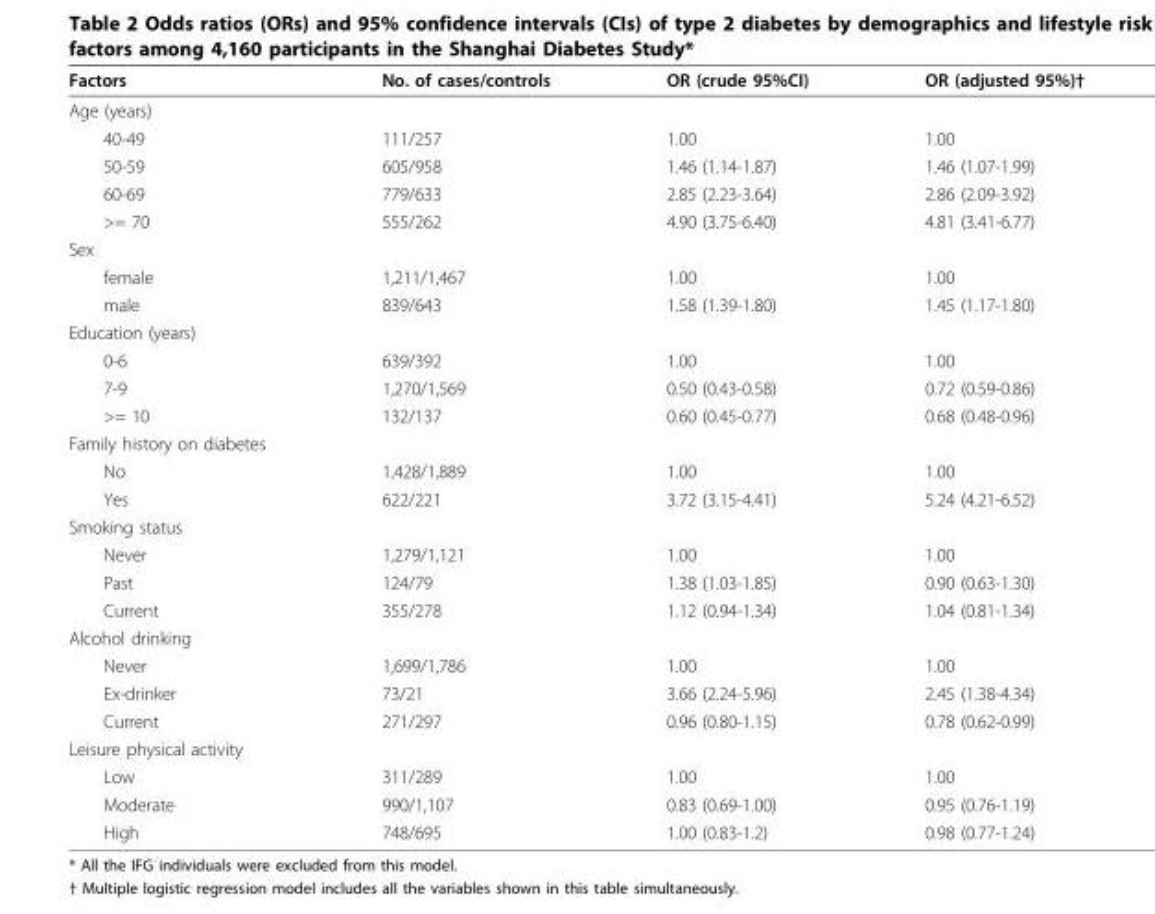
<table><thead><tr><td>Factors</td><td>No. of cases/controls</td><td>OR (crude 95%CI)</td><td>OR (adjusted 95%)†</td></tr></thead><tbody><tr><td colspan="4">Age (years)</td></tr><tr><td>40-49</td><td>111/257</td><td>1.00</td><td>1.00</td></tr><tr><td>50-59</td><td>605/958</td><td>1.46 (1.14-1.87)</td><td>1.46 (1.07-1.99)</td></tr><tr><td>60-69</td><td>779/633</td><td>2.85 (2.23-3.64)</td><td>2.86 (2.09-3.92)</td></tr><tr><td>&gt;= 70</td><td>555/262</td><td>4.90 (3.75-6.40)</td><td>4.81 (3.41-6.77)</td></tr><tr><td colspan="4">Sex</td></tr><tr><td>female</td><td>1,211/1,467</td><td>1.00</td><td>1.00</td></tr><tr><td>male</td><td>839/643</td><td>1.58 (1.39-1.80)</td><td>1.45 (1.17-1.80)</td></tr><tr><td colspan="4">Education (years)</td></tr><tr><td>0-6</td><td>639/392</td><td>1.00</td><td>1.00</td></tr><tr><td>7-9</td><td>1,270/1,569</td><td>0.50 (0.43-0.58)</td><td>0.72 (0.59-0.86)</td></tr><tr><td>&gt;= 10</td><td>132/137</td><td>0.60 (0.45-0.77)</td><td>0.68 (0.48-0.96)</td></tr><tr><td colspan="4">Family history on diabetes</td></tr><tr><td>No</td><td>1,428/1,889</td><td>1.00</td><td>1.00</td></tr><tr><td>Yes</td><td>622/221</td><td>3.72 (3.15-4.41)</td><td>5.24 (4.21-6.52)</td></tr><tr><td colspan="4">Smoking status</td></tr><tr><td>Never</td><td>1,279/1,121</td><td>1.00</td><td>1.00</td></tr><tr><td>Past</td><td>124/79</td><td>1.38 (1.03-1.85)</td><td>0.90 (0.63-1.30)</td></tr><tr><td>Current</td><td>355/278</td><td>1.12 (0.94-1.34)</td><td>1.04 (0.81-1.34)</td></tr><tr><td colspan="4">Alcohol drinking</td></tr><tr><td>Never</td><td>1,699/1,786</td><td>1.00</td><td>1.00</td></tr><tr><td>Ex-drinker</td><td>73/21</td><td>3.66 (2.24-5.96)</td><td>2.45 (1.38-4.34)</td></tr><tr><td>Current</td><td>271/297</td><td>0.96 (0.80-1.15)</td><td>0.78 (0.62-0.99)</td></tr><tr><td colspan="4">Leisure physical activity</td></tr><tr><td>Low</td><td>311/289</td><td>1.00</td><td>1.00</td></tr><tr><td>Moderate</td><td>990/1,107</td><td>0.83 (0.69-1.00)</td><td>0.95 (0.76-1.19)</td></tr><tr><td>High</td><td>748/695</td><td>1.00 (0.83-1.2)</td><td>0.98 (0.77-1.24)</td></tr></tbody></table>